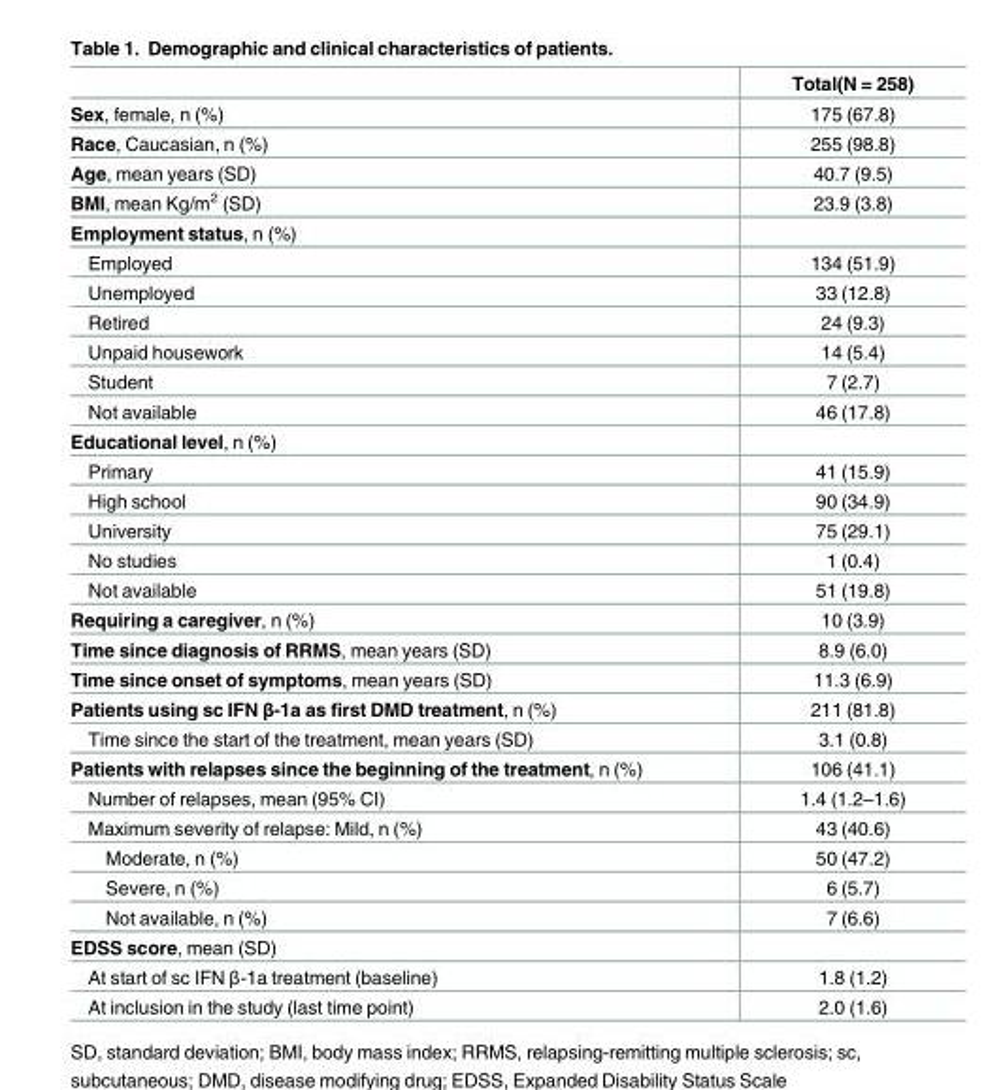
<table><thead><tr><td></td><td>Total(N = 258)</td></tr></thead><tbody><tr><td>Sex, female, n (%)</td><td>175 (67.8)</td></tr><tr><td>Race, Caucasian, n (%)</td><td>255 (98.8)</td></tr><tr><td>Age, mean years (SD)</td><td>40.7 (9.5)</td></tr><tr><td>BMI, mean Kg/m<sup>2</sup> (SD)</td><td>23.9 (3.8)</td></tr><tr><td colspan="2">Employment status, n (%)</td></tr><tr><td>Employed</td><td>134 (51.9)</td></tr><tr><td>Unemployed</td><td>33 (12.8)</td></tr><tr><td>Retired</td><td>24 (9.3)</td></tr><tr><td>Unpaid housework</td><td>14 (5.4)</td></tr><tr><td>Student</td><td>7 (2.7)</td></tr><tr><td>Not available</td><td>46 (17.8)</td></tr><tr><td colspan="2">Educational level, n (%)</td></tr><tr><td>Primary</td><td>41 (15.9)</td></tr><tr><td>High school</td><td>90 (34.9)</td></tr><tr><td>University</td><td>75 (29.1)</td></tr><tr><td>No studies</td><td>1 (0.4)</td></tr><tr><td>Not available</td><td>51 (19.8)</td></tr><tr><td>Requiring a caregiver, n (%)</td><td>10 (3.9)</td></tr><tr><td>Time since diagnosis of RRMS, mean years (SD)</td><td>8.9 (6.0)</td></tr><tr><td>Time since onset of symptoms, mean years (SD)</td><td>11.3 (6.9)</td></tr><tr><td>Patients using sc IFN β-1a as first DMD treatment, n (%)</td><td>211 (81.8)</td></tr><tr><td>Time since the start of the treatment, mean years (SD)</td><td>3.1 (0.8)</td></tr><tr><td>Patients with relapses since the beginning of the treatment, n (%)</td><td>106 (41.1)</td></tr><tr><td>Number of relapses, mean (95% CI)</td><td>1.4 (1.2–1.6)</td></tr><tr><td>Maximum severity of relapse: Mild, n (%)</td><td>43 (40.6)</td></tr><tr><td>Moderate, n (%)</td><td>50 (47.2)</td></tr><tr><td>Severe, n (%)</td><td>6 (5.7)</td></tr><tr><td>Not available, n (%)</td><td>7 (6.6)</td></tr><tr><td colspan="2">EDSS score, mean (SD)</td></tr><tr><td>At start of sc IFN β-1a treatment (baseline)</td><td>1.8 (1.2)</td></tr><tr><td>At inclusion in the study (last time point)</td><td>2.0 (1.6)</td></tr></tbody></table>